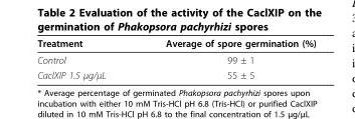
<table><thead><tr><td>Treatment</td><td>Average of spore germination (%)</td></tr></thead><tbody><tr><td>Control</td><td>99 ± 1</td></tr><tr><td>CaclXIP 1.5 μg/μL</td><td>55 ± 5</td></tr></tbody></table>